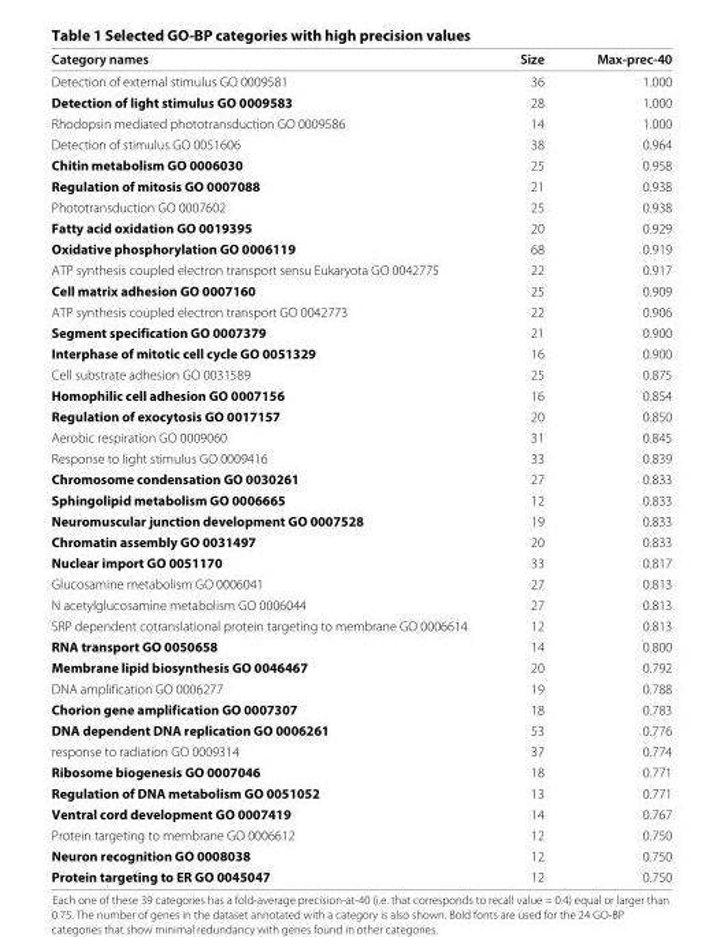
<table><thead><tr><td>Category names</td><td>Size</td><td>Max-prec-40</td></tr></thead><tbody><tr><td>Detection of external stimulus GO 0009581</td><td>36</td><td>1.000</td></tr><tr><td>Detection of light stimulus GO 0009583</td><td>28</td><td>1.000</td></tr><tr><td>Rhodopsin mediated phototransduction GO 0009586</td><td>14</td><td>1.000</td></tr><tr><td>Detection of stimulus GO 0051606</td><td>38</td><td>0.964</td></tr><tr><td>Chitin metabolism GO 0006030</td><td>25</td><td>0.958</td></tr><tr><td>Regulation of mitosis GO 0007088</td><td>21</td><td>0.938</td></tr><tr><td>Phototransduction GO 0007602</td><td>25</td><td>0.938</td></tr><tr><td>Fatty acid oxidation GO 0019395</td><td>20</td><td>0.929</td></tr><tr><td>Oxidative phosphorylation GO 0006119</td><td>68</td><td>0.919</td></tr><tr><td>ATP synthesis coupled electron transport sensu Eukaryota GO 0042775</td><td>22</td><td>0.917</td></tr><tr><td>Cell matrix adhesion GO 0007160</td><td>25</td><td>0.909</td></tr><tr><td>ATP synthesis coupled electron transport GO 0042773</td><td>22</td><td>0.906</td></tr><tr><td>Segment specification GO 0007379</td><td>21</td><td>0.900</td></tr><tr><td>Interphase of mitotic cell cycle GO 0051329</td><td>16</td><td>0.900</td></tr><tr><td>Cell substrate adhesion GO 0031589</td><td>25</td><td>0.875</td></tr><tr><td>Homophilic cell adhesion GO 0007156</td><td>16</td><td>0.854</td></tr><tr><td>Regulation of exocytosis GO 0017157</td><td>20</td><td>0.850</td></tr><tr><td>Aerobic respiration GO 0009060</td><td>31</td><td>0.845</td></tr><tr><td>Response to light stimulus GO 0009416</td><td>33</td><td>0.839</td></tr><tr><td>Chromosome condensation GO 0030261</td><td>27</td><td>0.833</td></tr><tr><td>Sphingolipid metabolism GO 0006665</td><td>12</td><td>0.833</td></tr><tr><td>Neuromuscular junction development GO 0007528</td><td>19</td><td>0.833</td></tr><tr><td>Chromatin assembly GO 0031497</td><td>20</td><td>0.833</td></tr><tr><td>Nuclear import GO 0051170</td><td>33</td><td>0.817</td></tr><tr><td>Glucosamine metabolism GO 0006041</td><td>27</td><td>0.813</td></tr><tr><td>N acetylglucosamine metabolism GO 0006044</td><td>27</td><td>0.813</td></tr><tr><td>SRP dependent cotranslational protein targeting to membrane GO 0006614</td><td>12</td><td>0.813</td></tr><tr><td>RNA transport GO 0050658</td><td>14</td><td>0.800</td></tr><tr><td>Membrane lipid biosynthesis GO 0046467</td><td>20</td><td>0.792</td></tr><tr><td>DNA amplification GO 0006277</td><td>19</td><td>0.788</td></tr><tr><td>Chorion gene amplification GO 0007307</td><td>18</td><td>0.783</td></tr><tr><td>DNA dependent DNA replication GO 0006261</td><td>53</td><td>0.776</td></tr><tr><td>response to radiation GO 0009314</td><td>37</td><td>0.774</td></tr><tr><td>Ribosome biogenesis GO 0007046</td><td>18</td><td>0.771</td></tr><tr><td>Regulation of DNA metabolism GO 0051052</td><td>13</td><td>0.771</td></tr><tr><td>Ventral cord development GO 0007419</td><td>14</td><td>0.767</td></tr><tr><td>Protein targeting to membrane GO 0006612</td><td>12</td><td>0.750</td></tr><tr><td>Neuron recognition GO 0008038</td><td>12</td><td>0.750</td></tr><tr><td>Protein targeting to ER GO 0045047</td><td>12</td><td>0.750</td></tr></tbody></table>